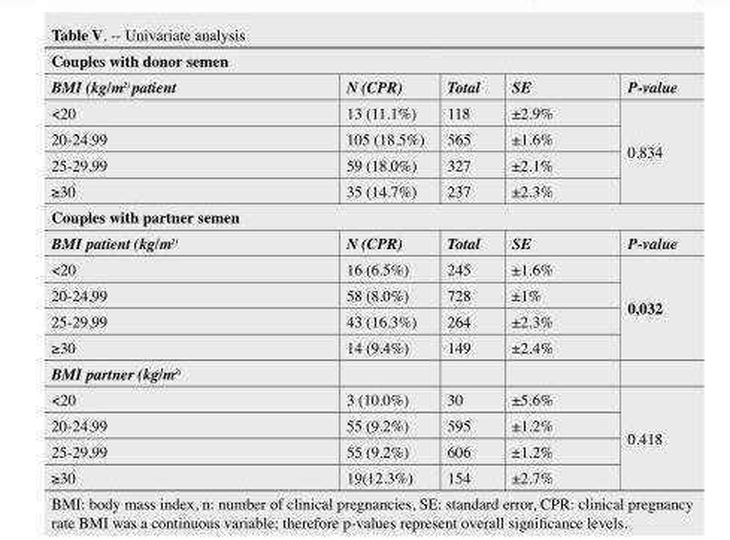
<table><thead><tr><td colspan="5">Couples with donor semen</td></tr><tr><td>BMI (kg/m<sup>2</sup>) patient</td><td>N (CPR)</td><td>Total</td><td>SE</td><td>P-value</td></tr></thead><tbody><tr><td>&lt;20</td><td>13 (11.1%)</td><td>118</td><td>±2.9%</td><td rowspan="4">0.834</td></tr><tr><td>20-24,99</td><td>105 (18.5%)</td><td>565</td><td>±1.6%</td></tr><tr><td>25-29,99</td><td>59 (18.0%)</td><td>327</td><td>±2.1%</td></tr><tr><td>≥30</td><td>35 (14.7%)</td><td>237</td><td>±2.3%</td></tr><tr><td colspan="5">Couples with partner semen</td></tr><tr><td>BMI patient (kg/m<sup>2</sup>)</td><td>N (CPR)</td><td>Total</td><td>SE</td><td>P-value</td></tr><tr><td>&lt;20</td><td>16 (6.5%)</td><td>245</td><td>±1.6%</td><td rowspan="4">0,032</td></tr><tr><td>20-24,99</td><td>58 (8.0%)</td><td>728</td><td>±1%</td></tr><tr><td>25-29,99</td><td>43 (16.3%)</td><td>264</td><td>±2.3%</td></tr><tr><td>≥30</td><td>14 (9.4%)</td><td>149</td><td>±2.4%</td></tr><tr><td>BMI partner (kg/m<sup>2</sup>)</td><td></td><td></td><td></td><td></td></tr><tr><td>&lt;20</td><td>3 (10.0%)</td><td>30</td><td>±5.6%</td><td rowspan="4">0,418</td></tr><tr><td>20-24,99</td><td>55 (9.2%)</td><td>595</td><td>±1.2%</td></tr><tr><td>25-29,99</td><td>55 (9.2%)</td><td>606</td><td>±1.2%</td></tr><tr><td>≥30</td><td>19(12.3%)</td><td>154</td><td>±2.7%</td></tr></tbody></table>